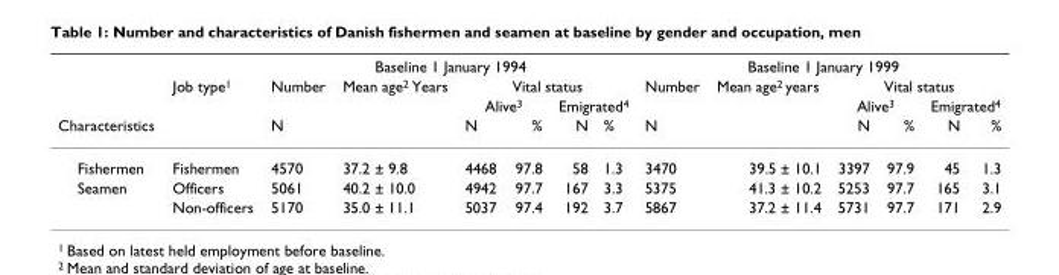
<table><thead><tr><td rowspan="4">Characteristics</td><td rowspan="4">Job type<sup>1</sup></td><td colspan="6">Baseline 1 January 1994</td><td colspan="6">Baseline 1 January 1999</td></tr><tr><td rowspan="3">Number N</td><td rowspan="3">Mean age2 Years</td><td colspan="4">Vital status</td><td rowspan="3">Number N</td><td rowspan="3">Mean age2 years</td><td colspan="4">Vital status</td></tr><tr><td colspan="2">Alive<sup>3</sup></td><td colspan="2">Emigrated<sup>4</sup></td><td colspan="2">Alive<sup>3</sup></td><td colspan="2">Emigrated<sup>4</sup></td></tr><tr><td>N</td><td>%</td><td>N</td><td>%</td><td>N</td><td>%</td><td>N</td><td>%</td></tr></thead><tbody><tr><td>Fishermen</td><td>Fishermen</td><td>4570</td><td>37.2 ± 9.8</td><td>4468</td><td>97.8</td><td>58</td><td>1.3</td><td>3470</td><td>39.5 ± 10.1</td><td>3397</td><td>97.9</td><td>45</td><td>1.3</td></tr><tr><td rowspan="2">Seamen</td><td>Officers</td><td>5061</td><td>40.2 ± 10.0</td><td>4942</td><td>97.7</td><td>167</td><td>3.3</td><td>5375</td><td>41.3 ± 10.2</td><td>5253</td><td>97.7</td><td>165</td><td>3.1</td></tr><tr><td>Non-officers</td><td>5170</td><td>35.0 ± 11.1</td><td>5037</td><td>97.4</td><td>192</td><td>3.7</td><td>5867</td><td>37.2 ± 11.4</td><td>5731</td><td>97.7</td><td>171</td><td>2.9</td></tr></tbody></table>